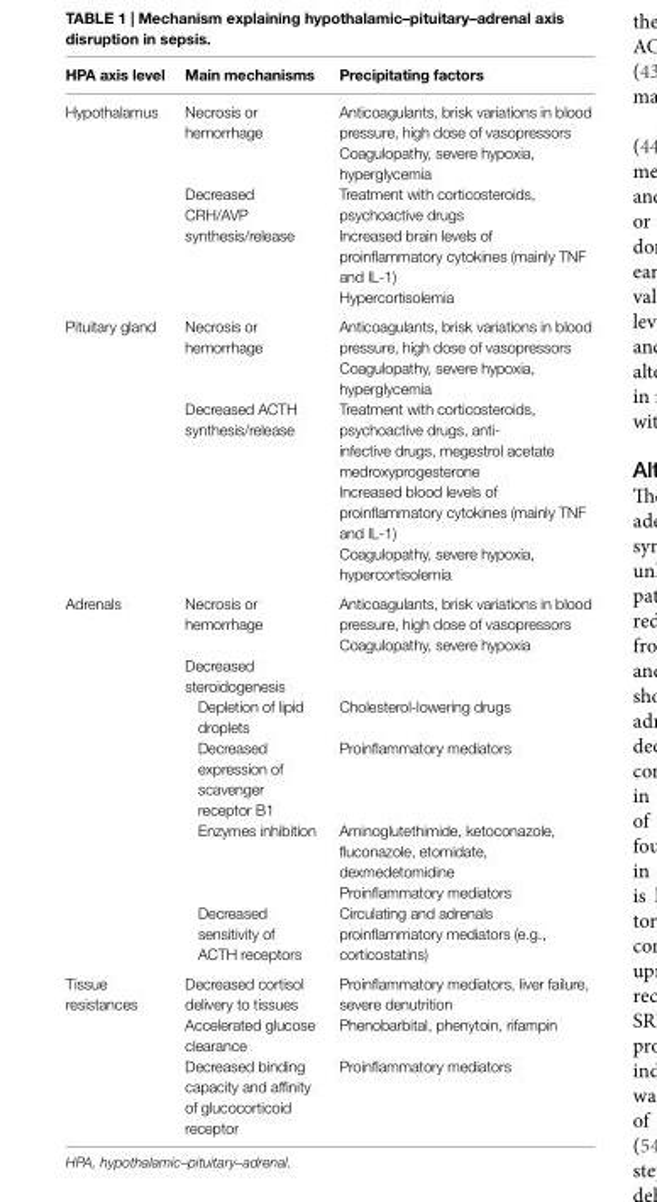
<table><thead><tr><td>HPA axis level</td><td>Main mechanisms</td><td>Precipitating factors</td></tr></thead><tbody><tr><td rowspan="5">Hypothalamus</td><td rowspan="2">Necrosis or hemorrhage</td><td>Anticoagulants, brisk variations in blood pressure, high dose of vasopressors</td></tr><tr><td>Coagulopathy, severe hypoxia, hyperglycemia</td></tr><tr><td rowspan="3">Decreased CRH/AVP synthesis/release</td><td>Treatment with corticosteroids, psychoactive drugs</td></tr><tr><td>Increased brain levels of proinflammatory cytokines (mainly TNF and IL-1)</td></tr><tr><td>Hypercortisolemia</td></tr><tr><td rowspan="5">Pituitary gland</td><td rowspan="2">Necrosis or hemorrhage</td><td>Anticoagulants, brisk variations in blood pressure, high dose of vasopressors</td></tr><tr><td>Coagulopathy, severe hypoxia, hyperglycemia</td></tr><tr><td rowspan="3">Decreased ACTH synthesis/release</td><td>Treatment with corticosteroids, psychoactive drugs, anti- infective drugs, megestrol acetate medroxyprogesterone</td></tr><tr><td>Increased blood levels of proinflammatory cytokines (mainly TNF and IL-1)</td></tr><tr><td>Coagulopathy, severe hypoxia, hypercortisolemia</td></tr><tr><td rowspan="8">Adrenals</td><td rowspan="2">Necrosis or hemorrhage</td><td>Anticoagulants, brisk variations in blood pressure, high dose of vasopressors</td></tr><tr><td>Coagulopathy, severe hypoxia</td></tr><tr><td>Decreased steroidogenesis</td><td></td></tr><tr><td>Depletion of lipid droplets</td><td>Cholesterol-lowering drugs</td></tr><tr><td>Decreased expression of scavenger receptor B1</td><td>Proinflammatory mediators</td></tr><tr><td rowspan="2">Enzymes inhibition</td><td>Aminoglutethimide, ketoconazole, fluconazole, etomidate, dexmedetomidine</td></tr><tr><td>Proinflammatory mediators</td></tr><tr><td>Decreased sensitivity of ACTH receptors</td><td>Circulating and adrenals proinflammatory mediators (e.g., corticostatins)</td></tr><tr><td rowspan="3">Tissue resistances</td><td>Decreased cortisol delivery to tissues</td><td>Proinflammatory mediators, liver failure, severe denutrition</td></tr><tr><td>Accelerated glucose clearance</td><td>Phenobarbital, phenytoin, rifampin</td></tr><tr><td>Decreased binding capacity and affinity of glucocorticoid receptor</td><td>Proinflammatory mediators</td></tr></tbody></table>